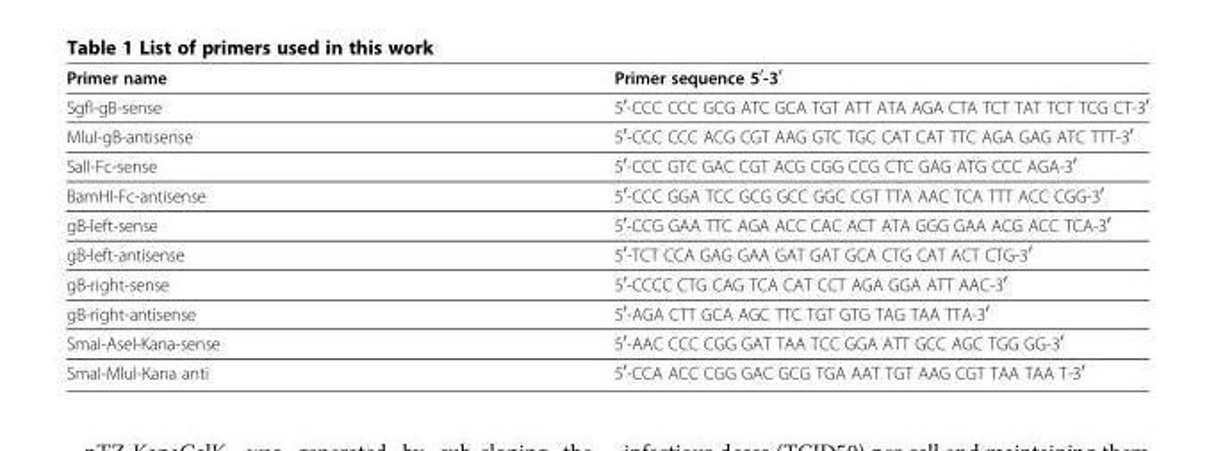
<table><thead><tr><td>Primer name</td><td>Primer sequence 5′-3′</td></tr></thead><tbody><tr><td>SgfI-gB-sense</td><td>5<sup>′</sup>-CCC CCC GCG ATC GCA TGT ATT ATA AGA CTA TCT TAT TCT TCG CT-3<sup>′</sup></td></tr><tr><td>MluI-gB-antisense</td><td>5<sup>′</sup>-CCC CCC ACG CGT AAG GTC TGC CAT CAT TTC AGA GAG ATC TTT-3<sup>′</sup></td></tr><tr><td>SalI-Fc-sense</td><td>5<sup>′</sup>-CCC GTC GAC CGT ACG CGG CCG CTC GAG ATG CCC AGA-3<sup>′</sup></td></tr><tr><td>BamHI-Fc-antisense</td><td>5<sup>′</sup>-CCC GGA TCC GCG GCC GGC CGT TTA AAC TCA TTT ACC CGG-3<sup>′</sup></td></tr><tr><td>gB-left-sense</td><td>5<sup>′</sup>-CCG GAA TTC AGA ACC CAC ACT ATA GGG GAA ACG ACC TCA-3<sup>′</sup></td></tr><tr><td>gB-left-antisense</td><td>5<sup>′</sup>-TCT CCA GAG GAA GAT GAT GCA CTG CAT ACT CTG-3<sup>′</sup></td></tr><tr><td>gB-right-sense</td><td>5<sup>′</sup>-CCCC CTG CAG TCA CAT CCT AGA GGA ATT AAC-3<sup>′</sup></td></tr><tr><td>gB-right-antisense</td><td>5<sup>′</sup>-AGA CTT GCA AGC TTC TGT GTG TAG TAA TTA-3<sup>′</sup></td></tr><tr><td>SmaI-AseI-Kana-sense</td><td>5<sup>′</sup>-AAC CCC CGG GAT TAA TCC GGA ATT GCC AGC TGG GG-3<sup>′</sup></td></tr><tr><td>SmaI-MluI-Kana anti</td><td>5<sup>′</sup>-CCA ACC CGG GAC GCG TGA AAT TGT AAG CGT TAA TAA T-3<sup>′</sup></td></tr></tbody></table>